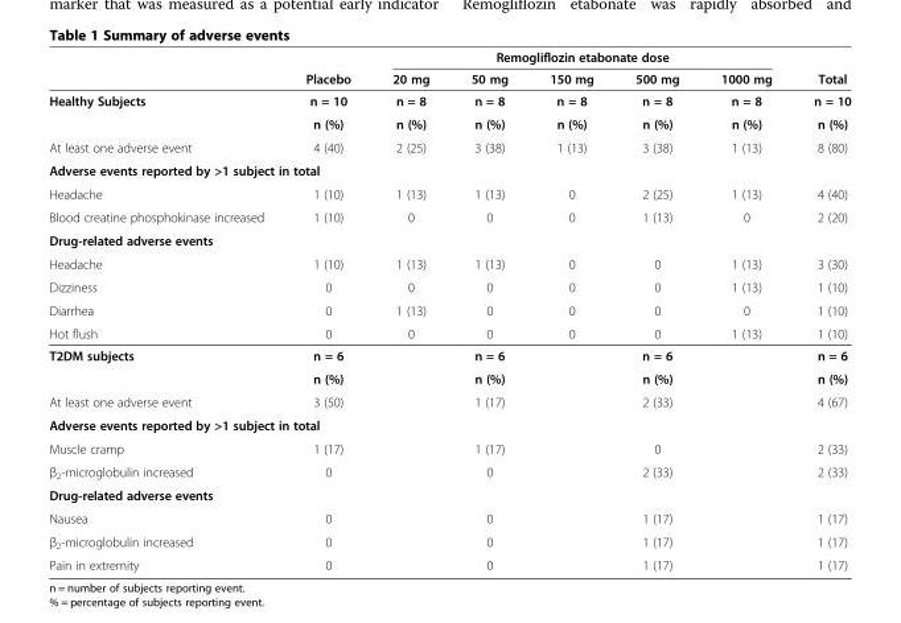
<table><thead><tr><td rowspan="2"></td><td rowspan="2">Placebo</td><td colspan="5">Remogliflozin etabonate dose</td><td rowspan="2">Total</td></tr><tr><td>20 mg</td><td>50 mg</td><td>150 mg</td><td>500 mg</td><td>1000 mg</td></tr></thead><tbody><tr><td rowspan="2">Healthy Subjects</td><td>n = 10</td><td>n = 8</td><td>n = 8</td><td>n = 8</td><td>n = 8</td><td>n = 8</td><td>n = 10</td></tr><tr><td>n (%)</td><td>n (%)</td><td>n (%)</td><td>n (%)</td><td>n (%)</td><td>n (%)</td><td>n (%)</td></tr><tr><td>At least one adverse event</td><td>4 (40)</td><td>2 (25)</td><td>3 (38)</td><td>1 (13)</td><td>3 (38)</td><td>1 (13)</td><td>8 (80)</td></tr><tr><td colspan="8">Adverse events reported by &gt;1 subject in total</td></tr><tr><td>Headache</td><td>1 (10)</td><td>1 (13)</td><td>1 (13)</td><td>0</td><td>2 (25)</td><td>1 (13)</td><td>4 (40)</td></tr><tr><td>Blood creatine phosphokinase increased</td><td>1 (10)</td><td>0</td><td>0</td><td>0</td><td>1 (13)</td><td>0</td><td>2 (20)</td></tr><tr><td colspan="8">Drug-related adverse events</td></tr><tr><td>Headache</td><td>1 (10)</td><td>1 (13)</td><td>1 (13)</td><td>0</td><td>0</td><td>1 (13)</td><td>3 (30)</td></tr><tr><td>Dizziness</td><td>0</td><td>0</td><td>0</td><td>0</td><td>0</td><td>1 (13)</td><td>1 (10)</td></tr><tr><td>Diarrhea</td><td>0</td><td>1 (13)</td><td>0</td><td>0</td><td>0</td><td>0</td><td>1 (10)</td></tr><tr><td>Hot flush</td><td>0</td><td>0</td><td>0</td><td>0</td><td>0</td><td>1 (13)</td><td>1 (10)</td></tr><tr><td rowspan="2">T2DM subjects</td><td>n = 6</td><td rowspan="3"></td><td>n = 6</td><td rowspan="3"></td><td>n = 6</td><td rowspan="3"></td><td>n = 6</td></tr><tr><td>n (%)</td><td>n (%)</td><td>n (%)</td><td>n (%)</td></tr><tr><td>At least one adverse event</td><td>3 (50)</td><td>1 (17)</td><td>2 (33)</td><td>4 (67)</td></tr><tr><td colspan="8">Adverse events reported by &gt;1 subject in total</td></tr><tr><td>Muscle cramp</td><td>1 (17)</td><td></td><td>1 (17)</td><td></td><td>0</td><td></td><td>2 (33)</td></tr><tr><td>β<sub>2</sub>-microglobulin increased</td><td>0</td><td></td><td>0</td><td></td><td>2 (33)</td><td></td><td>2 (33)</td></tr><tr><td colspan="8">Drug-related adverse events</td></tr><tr><td>Nausea</td><td>0</td><td></td><td>0</td><td></td><td>1 (17)</td><td></td><td>1 (17)</td></tr><tr><td>β<sub>2</sub>-microglobulin increased</td><td>0</td><td></td><td>0</td><td></td><td>1 (17)</td><td></td><td>1 (17)</td></tr><tr><td>Pain in extremity</td><td>0</td><td></td><td>0</td><td></td><td>1 (17)</td><td></td><td>1 (17)</td></tr></tbody></table>